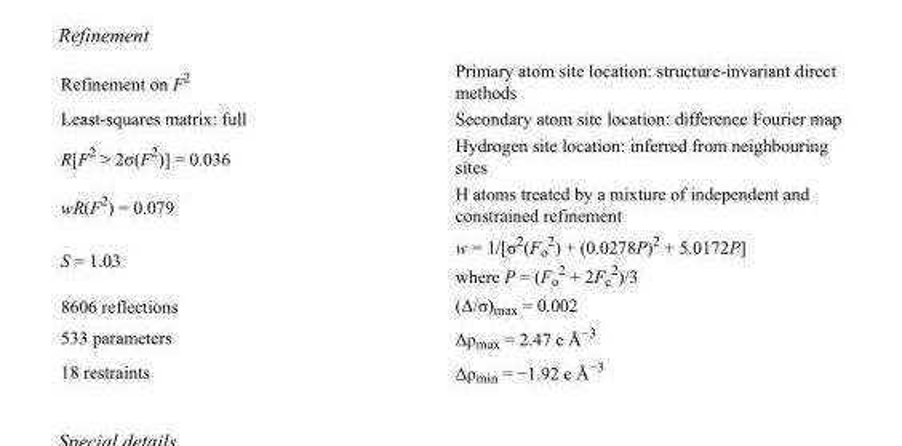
<table><tbody><tr><td>Refinement on F<sup>2</sup></td><td>Primary atom site location: structure-invariant direct methods</td></tr><tr><td>Least-squares matrix: full</td><td>Secondary atom site location: difference Fourier map</td></tr><tr><td>R[F<sup>2</sup> &gt; 2σ(F<sup>2</sup>)] = 0.036</td><td>Hydrogen site location: inferred from neighbouring sites</td></tr><tr><td>wR(F<sup>2</sup>) = 0.079</td><td>H atoms treated by a mixture of independent and constrained refinement</td></tr><tr><td>S = 1.03</td><td>w = 1/[σ<sup>2</sup>(F<sub>o</sub> <sup>2</sup>) + (0.0278P)<sup>2</sup> + 5.0172P] where P = (F<sub>o</sub> <sup>2</sup> + 2F<sub>c</sub> <sup>2</sup>)/3</td></tr><tr><td>8606 reflections</td><td>(Δ/σ)<sub>max</sub> = 0.002</td></tr><tr><td>533 parameters</td><td>Δρ<sub>max</sub> = 2.47 e Å<sup>−3</sup></td></tr><tr><td>18 restraints</td><td>Δρ<sub>min</sub> = −1.92 e Å<sup>−3</sup></td></tr></tbody></table>